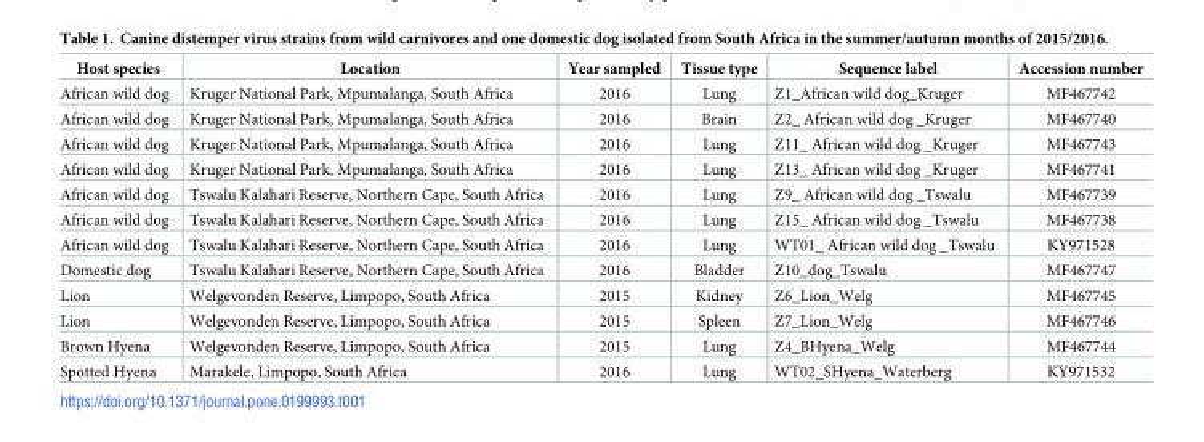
<table><thead><tr><td>Host species</td><td>Location</td><td>Year sampled</td><td>Tissue type</td><td>Sequence label</td><td>Accession number</td></tr></thead><tbody><tr><td>African wild dog</td><td>Kruger National Park, Mpumalanga, South Africa</td><td>2016</td><td>Lung</td><td>Z1_African wild dog_Kruger</td><td>MF467742</td></tr><tr><td>African wild dog</td><td>Kruger National Park, Mpumalanga, South Africa</td><td>2016</td><td>Brain</td><td>Z2_ African wild dog _Kruger</td><td>MF467740</td></tr><tr><td>African wild dog</td><td>Kruger National Park, Mpumalanga, South Africa</td><td>2016</td><td>Lung</td><td>Z11_ African wild dog _Kruger</td><td>MF467743</td></tr><tr><td>African wild dog</td><td>Kruger National Park, Mpumalanga, South Africa</td><td>2016</td><td>Lung</td><td>Z13_ African wild dog _Kruger</td><td>MF467741</td></tr><tr><td>African wild dog</td><td>Tswalu Kalahari Reserve, Northern Cape, South Africa</td><td>2016</td><td>Lung</td><td>Z9_ African wild dog _Tswalu</td><td>MF467739</td></tr><tr><td>African wild dog</td><td>Tswalu Kalahari Reserve, Northern Cape, South Africa</td><td>2016</td><td>Lung</td><td>Z15_ African wild dog _Tswalu</td><td>MF467738</td></tr><tr><td>African wild dog</td><td>Tswalu Kalahari Reserve, Northern Cape, South Africa</td><td>2016</td><td>Lung</td><td>WT01_ African wild dog _Tswalu</td><td>KY971528</td></tr><tr><td>Domestic dog</td><td>Tswalu Kalahari Reserve, Northern Cape, South Africa</td><td>2016</td><td>Bladder</td><td>Z10_dog_Tswalu</td><td>MF467747</td></tr><tr><td>Lion</td><td>Welgevonden Reserve, Limpopo, South Africa</td><td>2015</td><td>Kidney</td><td>Z6_Lion_Welg</td><td>MF467745</td></tr><tr><td>Lion</td><td>Welgevonden Reserve, Limpopo, South Africa</td><td>2015</td><td>Spleen</td><td>Z7_Lion_Welg</td><td>MF467746</td></tr><tr><td>Brown Hyena</td><td>Welgevonden Reserve, Limpopo, South Africa</td><td>2015</td><td>Lung</td><td>Z4_BHyena_Welg</td><td>MF467744</td></tr><tr><td>Spotted Hyena</td><td>Marakele, Limpopo, South Africa</td><td>2016</td><td>Lung</td><td>WT02_SHyena_Waterberg</td><td>KY971532</td></tr></tbody></table>